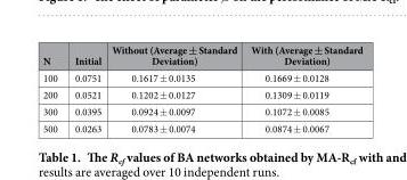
<table><thead><tr><td>N</td><td>Initial</td><td>Without (Average ± Standard Deviation)</td><td>With (Average ± Standard Deviation)</td></tr></thead><tbody><tr><td>100</td><td>0.0751</td><td>0.1617 ± 0.0135</td><td>0.1669 ± 0.0128</td></tr><tr><td>200</td><td>0.0521</td><td>0.1202 ± 0.0127</td><td>0.1309 ± 0.0119</td></tr><tr><td>300</td><td>0.0395</td><td>0.0924 ± 0.0097</td><td>0.1072 ± 0.0085</td></tr><tr><td>500</td><td>0.0263</td><td>0.0783 ± 0.0074</td><td>0.0874 ± 0.0067</td></tr></tbody></table>